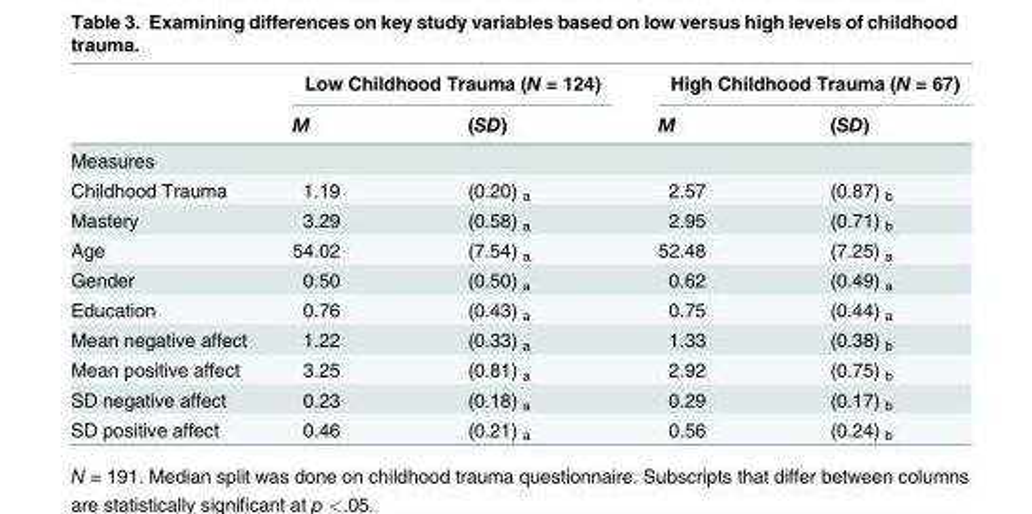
<table><thead><tr><td rowspan="2"></td><td colspan="2">Low Childhood Trauma (N = 124)</td><td colspan="2">High Childhood Trauma (N = 67)</td></tr><tr><td>M</td><td>(SD)</td><td>M</td><td>(SD)</td></tr></thead><tbody><tr><td colspan="5">Measures</td></tr><tr><td>Childhood Trauma</td><td>1.19</td><td>(0.20) <sub>a</sub></td><td>2.57</td><td>(0.87) <sub>b</sub></td></tr><tr><td>Mastery</td><td>3.29</td><td>(0.58) <sub>a</sub></td><td>2.95</td><td>(0.71) <sub>b</sub></td></tr><tr><td>Age</td><td>54.02</td><td>(7.54) <sub>a</sub></td><td>52.48</td><td>(7.25) <sub>a</sub></td></tr><tr><td>Gender</td><td>0.50</td><td>(0.50) <sub>a</sub></td><td>0.62</td><td>(0.49) <sub>a</sub></td></tr><tr><td>Education</td><td>0.76</td><td>(0.43) <sub>a</sub></td><td>0.75</td><td>(0.44) <sub>a</sub></td></tr><tr><td>Mean negative affect</td><td>1.22</td><td>(0.33) <sub>a</sub></td><td>1.33</td><td>(0.38) <sub>b</sub></td></tr><tr><td>Mean positive affect</td><td>3.25</td><td>(0.81) <sub>a</sub></td><td>2.92</td><td>(0.75) <sub>b</sub></td></tr><tr><td>SD negative affect</td><td>0.23</td><td>(0.18) <sub>a</sub></td><td>0.29</td><td>(0.17) <sub>b</sub></td></tr><tr><td>SD positive affect</td><td>0.46</td><td>(0.21) <sub>a</sub></td><td>0.56</td><td>(0.24) <sub>b</sub></td></tr></tbody></table>